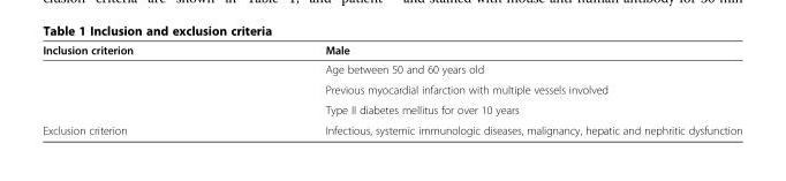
<table><thead><tr><td>Inclusion criterion</td><td>Male</td></tr></thead><tbody><tr><td></td><td>Age between 50 and 60 years old</td></tr><tr><td></td><td>Previous myocardial infarction with multiple vessels involved</td></tr><tr><td></td><td>Type II diabetes mellitus for over 10 years</td></tr><tr><td>Exclusion criterion</td><td>Infectious, systemic immunologic diseases, malignancy, hepatic and nephritic dysfunction</td></tr></tbody></table>